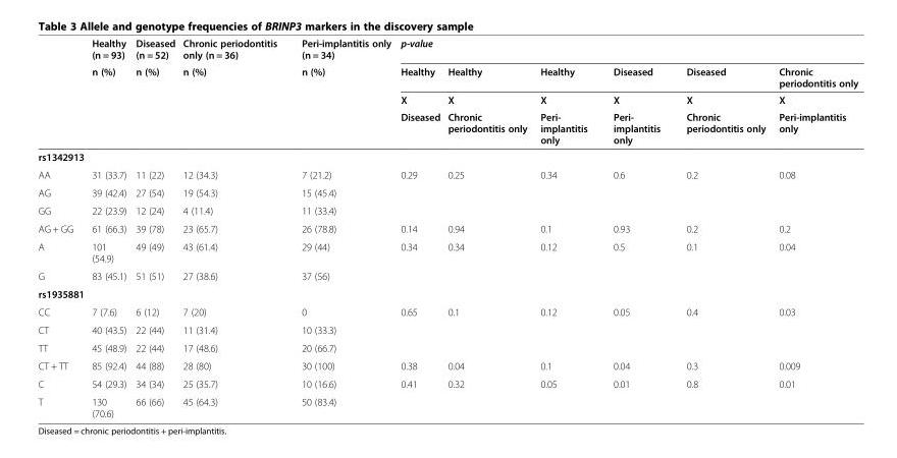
<table><thead><tr><td rowspan="4"></td><td rowspan="4">Healthy (n = 93) n (%)</td><td rowspan="4">Diseased (n = 52) n (%)</td><td rowspan="4">Chronic periodontitis only (n = 36) n (%)</td><td rowspan="4">Peri-implantitis only (n = 34) n (%)</td><td colspan="6">p-value</td></tr><tr><td rowspan="3">Healthy X Diseased</td><td rowspan="3">Healthy X Chronic periodontitis only</td><td rowspan="3">Healthy X Peri- implantitis only</td><td rowspan="3">Diseased X Peri- implantitis only</td><td rowspan="3">Diseased X Chronic periodontitis only</td><td rowspan="3">Chronic periodontitis only X Peri-implantitis only</td></tr><tr></tr><tr></tr></thead><tbody><tr><td colspan="11">rs1342913</td></tr><tr><td>AA</td><td>31 (33.7)</td><td>11 (22)</td><td>12 (34.3)</td><td>7 (21.2)</td><td rowspan="3">0.29</td><td rowspan="3">0.25</td><td rowspan="3">0.34</td><td rowspan="3">0.6</td><td rowspan="3">0.2</td><td rowspan="3">0.08</td></tr><tr><td>AG</td><td>39 (42.4)</td><td>27 (54)</td><td>19 (54.3)</td><td>15 (45.4)</td></tr><tr><td>GG</td><td>22 (23.9)</td><td>12 (24)</td><td>4 (11.4)</td><td>11 (33.4)</td></tr><tr><td>AG + GG</td><td>61 (66.3)</td><td>39 (78)</td><td>23 (65.7)</td><td>26 (78.8)</td><td>0.14</td><td>0.94</td><td>0.1</td><td>0.93</td><td>0.2</td><td>0.2</td></tr><tr><td>A</td><td>101 (54.9)</td><td>49 (49)</td><td>43 (61.4)</td><td>29 (44)</td><td rowspan="2">0.34</td><td rowspan="2">0.34</td><td rowspan="2">0.12</td><td rowspan="2">0.5</td><td rowspan="2">0.1</td><td rowspan="2">0.04</td></tr><tr><td>G</td><td>83 (45.1)</td><td>51 (51)</td><td>27 (38.6)</td><td>37 (56)</td></tr><tr><td colspan="11">rs1935881</td></tr><tr><td>CC</td><td>7 (7.6)</td><td>6 (12)</td><td>7 (20)</td><td>0</td><td rowspan="3">0.65</td><td rowspan="3">0.1</td><td rowspan="3">0.12</td><td rowspan="3">0.05</td><td rowspan="3">0.4</td><td rowspan="3">0.03</td></tr><tr><td>CT</td><td>40 (43.5)</td><td>22 (44)</td><td>11 (31.4)</td><td>10 (33.3)</td></tr><tr><td>TT</td><td>45 (48.9)</td><td>22 (44)</td><td>17 (48.6)</td><td>20 (66.7)</td></tr><tr><td>CT + TT</td><td>85 (92.4)</td><td>44 (88)</td><td>28 (80)</td><td>30 (100)</td><td>0.38</td><td>0.04</td><td>0.1</td><td>0.04</td><td>0.3</td><td>0.009</td></tr><tr><td>C</td><td>54 (29.3)</td><td>34 (34)</td><td>25 (35.7)</td><td>10 (16.6)</td><td rowspan="2">0.41</td><td rowspan="2">0.32</td><td rowspan="2">0.05</td><td rowspan="2">0.01</td><td rowspan="2">0.8</td><td rowspan="2">0.01</td></tr><tr><td>T</td><td>130 (70.6)</td><td>66 (66)</td><td>45 (64.3)</td><td>50 (83.4)</td></tr></tbody></table>